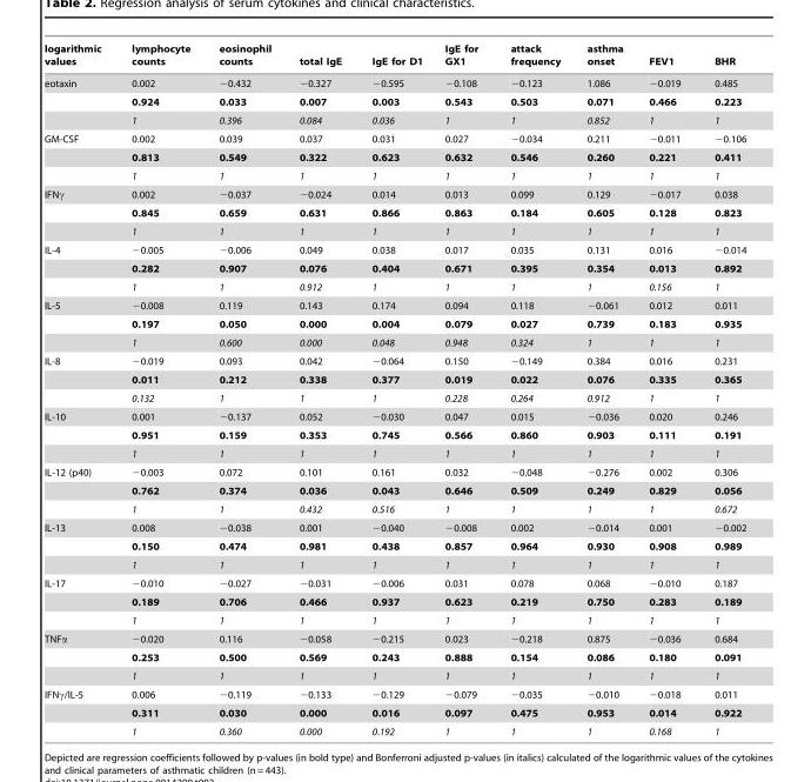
<table><thead><tr><td>logarithmic values</td><td>lymphocyte counts</td><td>eosinophil counts</td><td>total IgE</td><td>IgE for D1</td><td>IgE for GX1</td><td>attack frequency</td><td>asthma onset</td><td>FEV1</td><td>BHR</td></tr></thead><tbody><tr><td rowspan="3">eotaxin</td><td>0.002</td><td>−0.432</td><td>−0.327</td><td>−0.595</td><td>−0.108</td><td>−0.123</td><td>1.086</td><td>−0.019</td><td>0.485</td></tr><tr><td>0.924</td><td>0.033</td><td>0.007</td><td>0.003</td><td>0.543</td><td>0.503</td><td>0.071</td><td>0.466</td><td>0.223</td></tr><tr><td>1</td><td>0.396</td><td>0.084</td><td>0.036</td><td>1</td><td>1</td><td>0.852</td><td>1</td><td>1</td></tr><tr><td rowspan="3">GM-CSF</td><td>0.002</td><td>0.039</td><td>0.037</td><td>0.031</td><td>0.027</td><td>−0.034</td><td>0.211</td><td>−0.011</td><td>−0.106</td></tr><tr><td>0.813</td><td>0.549</td><td>0.322</td><td>0.623</td><td>0.632</td><td>0.546</td><td>0.260</td><td>0.221</td><td>0.411</td></tr><tr><td>1</td><td>1</td><td>1</td><td>1</td><td>1</td><td>1</td><td>1</td><td>1</td><td>1</td></tr><tr><td rowspan="3">IFNγ</td><td>0.002</td><td>−0.037</td><td>−0.024</td><td>0.014</td><td>0.013</td><td>0.099</td><td>0.129</td><td>−0.017</td><td>0.038</td></tr><tr><td>0.845</td><td>0.659</td><td>0.631</td><td>0.866</td><td>0.863</td><td>0.184</td><td>0.605</td><td>0.128</td><td>0.823</td></tr><tr><td>1</td><td>1</td><td>1</td><td>1</td><td>1</td><td>1</td><td>1</td><td>1</td><td>1</td></tr><tr><td rowspan="3">IL-4</td><td>−0.005</td><td>−0.006</td><td>0.049</td><td>0.038</td><td>0.017</td><td>0.035</td><td>0.131</td><td>0.016</td><td>−0.014</td></tr><tr><td>0.282</td><td>0.907</td><td>0.076</td><td>0.404</td><td>0.671</td><td>0.395</td><td>0.354</td><td>0.013</td><td>0.892</td></tr><tr><td>1</td><td>1</td><td>0.912</td><td>1</td><td>1</td><td>1</td><td>1</td><td>0.156</td><td>1</td></tr><tr><td rowspan="3">IL-5</td><td>−0.008</td><td>0.119</td><td>0.143</td><td>0.174</td><td>0.094</td><td>0.118</td><td>−0.061</td><td>0.012</td><td>0.011</td></tr><tr><td>0.197</td><td>0.050</td><td>0.000</td><td>0.004</td><td>0.079</td><td>0.027</td><td>0.739</td><td>0.183</td><td>0.935</td></tr><tr><td>1</td><td>0.600</td><td>0.000</td><td>0.048</td><td>0.948</td><td>0.324</td><td>1</td><td>1</td><td>1</td></tr><tr><td rowspan="3">IL-8</td><td>−0.019</td><td>0.093</td><td>0.042</td><td>−0.064</td><td>0.150</td><td>−0.149</td><td>0.384</td><td>0.016</td><td>0.231</td></tr><tr><td>0.011</td><td>0.212</td><td>0.338</td><td>0.377</td><td>0.019</td><td>0.022</td><td>0.076</td><td>0.335</td><td>0.365</td></tr><tr><td>0.132</td><td>1</td><td>1</td><td>1</td><td>0.228</td><td>0.264</td><td>0.912</td><td>1</td><td>1</td></tr><tr><td rowspan="3">IL-10</td><td>0.001</td><td>−0.137</td><td>0.052</td><td>−0.030</td><td>0.047</td><td>0.015</td><td>−0.036</td><td>0.020</td><td>0.246</td></tr><tr><td>0.951</td><td>0.159</td><td>0.353</td><td>0.745</td><td>0.566</td><td>0.860</td><td>0.903</td><td>0.111</td><td>0.191</td></tr><tr><td>1</td><td>1</td><td>1</td><td>1</td><td>1</td><td>1</td><td>1</td><td>1</td><td>1</td></tr><tr><td rowspan="3">IL-12 (p40)</td><td>−0.003</td><td>0.072</td><td>0.101</td><td>0.161</td><td>0.032</td><td>−0.048</td><td>−0.276</td><td>0.002</td><td>0.306</td></tr><tr><td>0.762</td><td>0.374</td><td>0.036</td><td>0.043</td><td>0.646</td><td>0.509</td><td>0.249</td><td>0.829</td><td>0.056</td></tr><tr><td>1</td><td>1</td><td>0.432</td><td>0.516</td><td>1</td><td>1</td><td>1</td><td>1</td><td>0.672</td></tr><tr><td rowspan="3">IL-13</td><td>0.008</td><td>−0.038</td><td>0.001</td><td>−0.040</td><td>−0.008</td><td>0.002</td><td>−0.014</td><td>0.001</td><td>−0.002</td></tr><tr><td>0.150</td><td>0.474</td><td>0.981</td><td>0.438</td><td>0.857</td><td>0.964</td><td>0.930</td><td>0.908</td><td>0.989</td></tr><tr><td>1</td><td>1</td><td>1</td><td>1</td><td>1</td><td>1</td><td>1</td><td>1</td><td>1</td></tr><tr><td rowspan="3">IL-17</td><td>−0.010</td><td>−0.027</td><td>−0.031</td><td>−0.006</td><td>0.031</td><td>0.078</td><td>0.068</td><td>−0.010</td><td>0.187</td></tr><tr><td>0.189</td><td>0.706</td><td>0.466</td><td>0.937</td><td>0.623</td><td>0.219</td><td>0.750</td><td>0.283</td><td>0.189</td></tr><tr><td>1</td><td>1</td><td>1</td><td>1</td><td>1</td><td>1</td><td>1</td><td>1</td><td>1</td></tr><tr><td rowspan="3">TNFα</td><td>−0.020</td><td>0.116</td><td>−0.058</td><td>−0.215</td><td>0.023</td><td>−0.218</td><td>0.875</td><td>−0.036</td><td>0.684</td></tr><tr><td>0.253</td><td>0.500</td><td>0.569</td><td>0.243</td><td>0.888</td><td>0.154</td><td>0.086</td><td>0.180</td><td>0.091</td></tr><tr><td>1</td><td>1</td><td>1</td><td>1</td><td>1</td><td>1</td><td>1</td><td>1</td><td>1</td></tr><tr><td rowspan="3">IFNγ/IL-5</td><td>0.006</td><td>−0.119</td><td>−0.133</td><td>−0.129</td><td>−0.079</td><td>−0.035</td><td>−0.010</td><td>−0.018</td><td>0.011</td></tr><tr><td>0.311</td><td>0.030</td><td>0.000</td><td>0.016</td><td>0.097</td><td>0.475</td><td>0.953</td><td>0.014</td><td>0.922</td></tr><tr><td>1</td><td>0.360</td><td>0.000</td><td>0.192</td><td>1</td><td>1</td><td>1</td><td>0.168</td><td>1</td></tr></tbody></table>